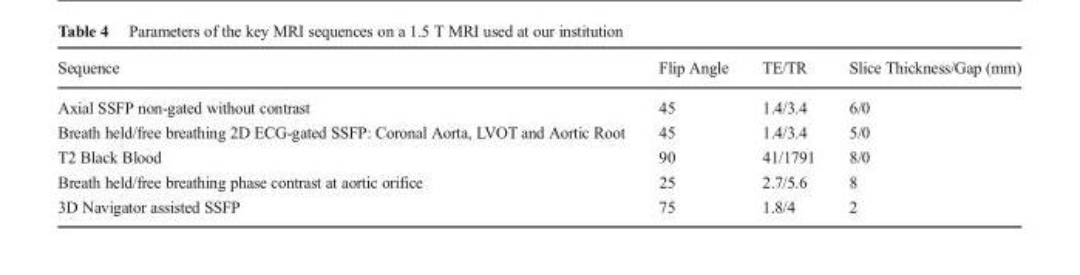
<table><thead><tr><td>Sequence</td><td>Flip Angle</td><td>TE/TR</td><td>Slice Thickness/Gap (mm)</td></tr></thead><tbody><tr><td>Axial SSFP non-gated without contrast</td><td>45</td><td>1.4/3.4</td><td>6/0</td></tr><tr><td>Breath held/free breathing 2D ECG-gated SSFP: Coronal Aorta, LVOT and Aortic Root</td><td>45</td><td>1.4/3.4</td><td>5/0</td></tr><tr><td>T2 Black Blood</td><td>90</td><td>41/1791</td><td>8/0</td></tr><tr><td>Breath held/free breathing phase contrast at aortic orifice</td><td>25</td><td>2.7/5.6</td><td>8</td></tr><tr><td>3D Navigator assisted SSFP</td><td>75</td><td>1.8/4</td><td>2</td></tr></tbody></table>